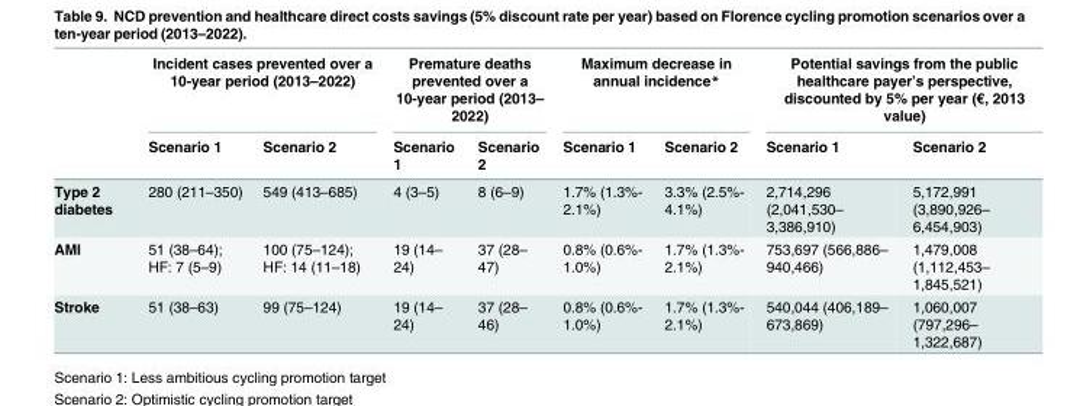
<table><thead><tr><td rowspan="2"></td><td colspan="2">Incident cases prevented over a 10-year period (2013–2022)</td><td colspan="2">Premature deaths prevented over a 10-year period (2013– 2022)</td><td colspan="2">Maximum decrease in annual incidence*</td><td colspan="2">Potential savings from the public healthcare payer’s perspective, discounted by 5% per year (€, 2013 value)</td></tr><tr><td>Scenario 1</td><td>Scenario 2</td><td>Scenario 1</td><td>Scenario 2</td><td>Scenario 1</td><td>Scenario 2</td><td>Scenario 1</td><td>Scenario 2</td></tr></thead><tbody><tr><td>Type 2 diabetes</td><td>280 (211–350)</td><td>549 (413–685)</td><td>4 (3–5)</td><td>8 (6–9)</td><td>1.7% (1.3%- 2.1%)</td><td>3.3% (2.5%- 4.1%)</td><td>2,714,296 (2,041,530– 3,386,910)</td><td>5,172,991 (3,890,926– 6,454,903)</td></tr><tr><td>AMI</td><td>51 (38–64); HF: 7 (5–9)</td><td>100 (75–124); HF: 14 (11–18)</td><td>19 (14– 24)</td><td>37 (28– 47)</td><td>0.8% (0.6%- 1.0%)</td><td>1.7% (1.3%- 2.1%)</td><td>753,697 (566,886– 940,466)</td><td>1,479,008 (1,112,453– 1,845,521)</td></tr><tr><td>Stroke</td><td>51 (38–63)</td><td>99 (75–124)</td><td>19 (14– 24)</td><td>37 (28– 46)</td><td>0.8% (0.6%- 1.0%)</td><td>1.7% (1.3%- 2.1%)</td><td>540,044 (406,189– 673,869)</td><td>1,060,007 (797,296– 1,322,687)</td></tr></tbody></table>